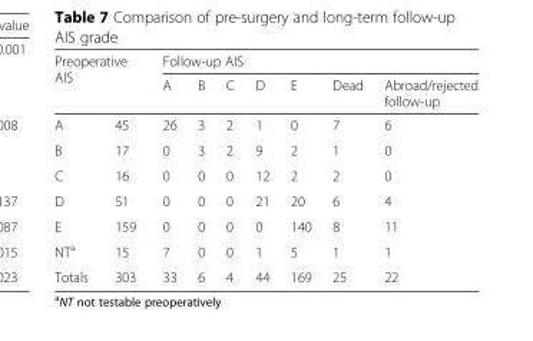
<table><thead><tr><td rowspan="2" colspan="2">Preoperative AIS</td><td colspan="7">Follow-up AIS</td></tr><tr><td rowspan="2">A 26</td><td rowspan="2">B 3</td><td rowspan="2">C 2</td><td rowspan="2">D 1</td><td rowspan="2">E 0</td><td rowspan="2">Dead 7</td><td rowspan="2">Abroad/rejected follow-up 6</td></tr><tr><td>A</td><td>45</td></tr></thead><tbody><tr><td>B</td><td>17</td><td>0</td><td>3</td><td>2</td><td>9</td><td>2</td><td>1</td><td>0</td></tr><tr><td>C</td><td>16</td><td>0</td><td>0</td><td>0</td><td>12</td><td>2</td><td>2</td><td>0</td></tr><tr><td>D</td><td>51</td><td>0</td><td>0</td><td>0</td><td>21</td><td>20</td><td>6</td><td>4</td></tr><tr><td>E</td><td>159</td><td>0</td><td>0</td><td>0</td><td>0</td><td>140</td><td>8</td><td>11</td></tr><tr><td>NT<sup>a</sup></td><td>15</td><td>7</td><td>0</td><td>0</td><td>1</td><td>5</td><td>1</td><td>1</td></tr><tr><td>Totals</td><td>303</td><td>33</td><td>6</td><td>4</td><td>44</td><td>169</td><td>25</td><td>22</td></tr></tbody></table>